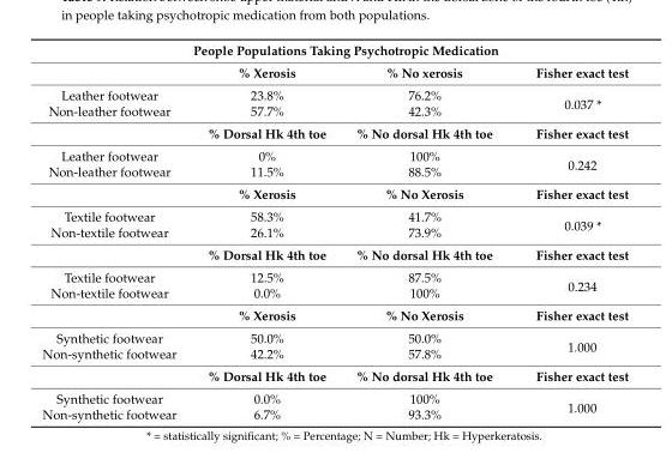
<table><thead><tr><td colspan="4">People Populations Taking Psychotropic Medication</td></tr><tr><td></td><td>% Xerosis</td><td>% No xerosis</td><td>Fisher exact test</td></tr></thead><tbody><tr><td>Leather footwear</td><td>23.8%</td><td>76.2%</td><td rowspan="2">0.037 *</td></tr><tr><td rowspan="2">Non-leather footwear</td><td>57.7%</td><td>42.3%</td></tr><tr><td>% Dorsal Hk 4th toe</td><td>% No dorsal Hk 4th toe</td><td>Fisher exact test</td></tr><tr><td>Leather footwear</td><td>0%</td><td>100%</td><td rowspan="2">0.242</td></tr><tr><td rowspan="2">Non-leather footwear</td><td>11.5%</td><td>88.5%</td></tr><tr><td>% Xerosis</td><td>% No Xerosis</td><td>Fisher exact test</td></tr><tr><td>Textile footwear</td><td>58.3%</td><td>41.7%</td><td rowspan="2">0.039 *</td></tr><tr><td rowspan="2">Non-textile footwear</td><td>26.1%</td><td>73.9%</td></tr><tr><td>% Dorsal Hk 4th toe</td><td>% No dorsal Hk 4th toe</td><td>Fisher exact test</td></tr><tr><td>Textile footwear</td><td>12.5%</td><td>87.5%</td><td rowspan="2">0.234</td></tr><tr><td rowspan="2">Non-textile footwear</td><td>0.0%</td><td>100%</td></tr><tr><td>% Xerosis</td><td>% No Xerosis</td><td>Fisher exact test</td></tr><tr><td>Synthetic footwear</td><td>50.0%</td><td>50.0%</td><td rowspan="2">1.000</td></tr><tr><td rowspan="2">Non-synthetic footwear</td><td>42.2%</td><td>57.8%</td></tr><tr><td>% Dorsal Hk 4th toe</td><td>% No dorsal Hk 4th toe</td><td>Fisher exact test</td></tr><tr><td>Synthetic footwear</td><td>0.0%</td><td>100%</td><td rowspan="2">1.000</td></tr><tr><td>Non-synthetic footwear</td><td>6.7%</td><td>93.3%</td></tr></tbody></table>